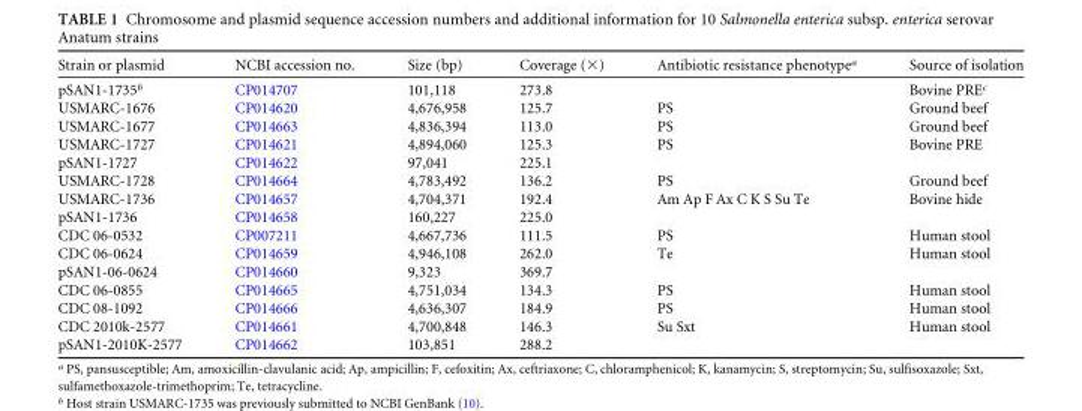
<table><thead><tr><td>Strain or plasmid</td><td>NCBI accession no.</td><td>Size (bp)</td><td>Coverage (×)</td><td>Antibiotic resistance phenotype<sup>a</sup></td><td>Source of isolation</td></tr></thead><tbody><tr><td>pSAN1-1735<sup>b</sup></td><td>CP014707</td><td>101,118</td><td>273.8</td><td></td><td>Bovine PRE<sup>c</sup></td></tr><tr><td>USMARC-1676</td><td>CP014620</td><td>4,676,958</td><td>125.7</td><td>PS</td><td>Ground beef</td></tr><tr><td>USMARC-1677</td><td>CP014663</td><td>4,836,394</td><td>113.0</td><td>PS</td><td>Ground beef</td></tr><tr><td>USMARC-1727</td><td>CP014621</td><td>4,894,060</td><td>125.3</td><td>PS</td><td>Bovine PRE</td></tr><tr><td>pSAN1-1727</td><td>CP014622</td><td>97,041</td><td>225.1</td><td></td><td></td></tr><tr><td>USMARC-1728</td><td>CP014664</td><td>4,783,492</td><td>136.2</td><td>PS</td><td>Ground beef</td></tr><tr><td>USMARC-1736</td><td>CP014657</td><td>4,704,371</td><td>192.4</td><td>Am Ap F Ax C K S Su Te</td><td>Bovine hide</td></tr><tr><td>pSAN1-1736</td><td>CP014658</td><td>160,227</td><td>225.0</td><td></td><td></td></tr><tr><td>CDC 06-0532</td><td>CP007211</td><td>4,667,736</td><td>111.5</td><td>PS</td><td>Human stool</td></tr><tr><td>CDC 06-0624</td><td>CP014659</td><td>4,946,108</td><td>262.0</td><td>Te</td><td>Human stool</td></tr><tr><td>pSAN1-06-0624</td><td>CP014660</td><td>9,323</td><td>369.7</td><td></td><td></td></tr><tr><td>CDC 06-0855</td><td>CP014665</td><td>4,751,034</td><td>134.3</td><td>PS</td><td>Human stool</td></tr><tr><td>CDC 08-1092</td><td>CP014666</td><td>4,636,307</td><td>184.9</td><td>PS</td><td>Human stool</td></tr><tr><td>CDC 2010k-2577</td><td>CP014661</td><td>4,700,848</td><td>146.3</td><td>Su Sxt</td><td>Human stool</td></tr><tr><td>pSAN1-2010K-2577</td><td>CP014662</td><td>103,851</td><td>288.2</td><td></td><td></td></tr></tbody></table>